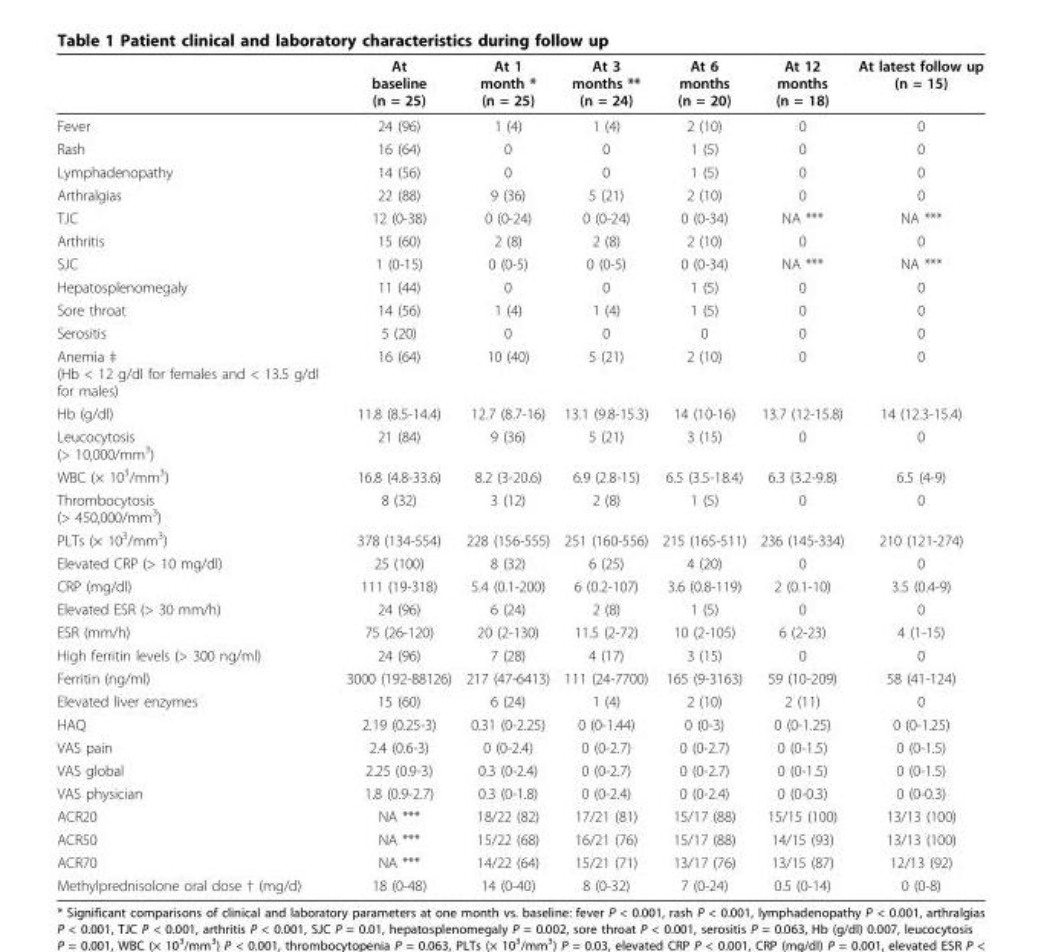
<table><thead><tr><td></td><td>At baseline (n = 25)</td><td>At 1 month * (n = 25)</td><td>At 3 months ** (n = 24)</td><td>At 6 months (n = 20)</td><td>At 12 months (n = 18)</td><td>At latest follow up (n = 15)</td></tr></thead><tbody><tr><td>Fever</td><td>24 (96)</td><td>1 (4)</td><td>1 (4)</td><td>2 (10)</td><td>0</td><td>0</td></tr><tr><td>Rash</td><td>16 (64)</td><td>0</td><td>0</td><td>1 (5)</td><td>0</td><td>0</td></tr><tr><td>Lymphadenopathy</td><td>14 (56)</td><td>0</td><td>0</td><td>1 (5)</td><td>0</td><td>0</td></tr><tr><td>Arthralgias</td><td>22 (88)</td><td>9 (36)</td><td>5 (21)</td><td>2 (10)</td><td>0</td><td>0</td></tr><tr><td>TJC</td><td>12 (0-38)</td><td>0 (0-24)</td><td>0 (0-24)</td><td>0 (0-34)</td><td>NA ***</td><td>NA ***</td></tr><tr><td>Arthritis</td><td>15 (60)</td><td>2 (8)</td><td>2 (8)</td><td>2 (10)</td><td>0</td><td>0</td></tr><tr><td>SJC</td><td>1 (0-15)</td><td>0 (0-5)</td><td>0 (0-5)</td><td>0 (0-34)</td><td>NA ***</td><td>NA ***</td></tr><tr><td>Hepatosplenomegaly</td><td>11 (44)</td><td>0</td><td>0</td><td>1 (5)</td><td>0</td><td>0</td></tr><tr><td>Sore throat</td><td>14 (56)</td><td>1 (4)</td><td>1 (4)</td><td>1 (5)</td><td>0</td><td>0</td></tr><tr><td>Serositis</td><td>5 (20)</td><td>0</td><td>0</td><td>0</td><td>0</td><td>0</td></tr><tr><td>Anemia ‡ (Hb &lt; 12 g/dl for females and &lt; 13.5 g/dl for males)</td><td>16 (64)</td><td>10 (40)</td><td>5 (21)</td><td>2 (10)</td><td>0</td><td>0</td></tr><tr><td>Hb (g/dl)</td><td>11.8 (8.5-14.4)</td><td>12.7 (8.7-16)</td><td>13.1 (9.8-15.3)</td><td>14 (10-16)</td><td>13.7 (12-15.8)</td><td>14 (12.3-15.4)</td></tr><tr><td>Leucocytosis (&gt; 10,000/mm<sup>3</sup>)</td><td>21 (84)</td><td>9 (36)</td><td>5 (21)</td><td>3 (15)</td><td>0</td><td>0</td></tr><tr><td>WBC (× 10<sup>3</sup>/mm<sup>3</sup>)</td><td>16.8 (4.8-33.6)</td><td>8.2 (3-20.6)</td><td>6.9 (2.8-15)</td><td>6.5 (3.5-18.4)</td><td>6.3 (3.2-9.8)</td><td>6.5 (4-9)</td></tr><tr><td>Thrombocytosis (&gt; 450,000/mm<sup>3</sup>)</td><td>8 (32)</td><td>3 (12)</td><td>2 (8)</td><td>1 (5)</td><td>0</td><td>0</td></tr><tr><td>PLTs (× 10<sup>3</sup>/mm<sup>3</sup>)</td><td>378 (134-554)</td><td>228 (156-555)</td><td>251 (160-556)</td><td>215 (165-511)</td><td>236 (145-334)</td><td>210 (121-274)</td></tr><tr><td>Elevated CRP (&gt; 10 mg/dl)</td><td>25 (100)</td><td>8 (32)</td><td>6 (25)</td><td>4 (20)</td><td>0</td><td>0</td></tr><tr><td>CRP (mg/dl)</td><td>111 (19-318)</td><td>5.4 (0.1-200)</td><td>6 (0.2-107)</td><td>3.6 (0.8-119)</td><td>2 (0.1-10)</td><td>3.5 (0.4-9)</td></tr><tr><td>Elevated ESR (&gt; 30 mm/h)</td><td>24 (96)</td><td>6 (24)</td><td>2 (8)</td><td>1 (5)</td><td>0</td><td>0</td></tr><tr><td>ESR (mm/h)</td><td>75 (26-120)</td><td>20 (2-130)</td><td>11.5 (2-72)</td><td>10 (2-105)</td><td>6 (2-23)</td><td>4 (1-15)</td></tr><tr><td>High ferritin levels (&gt; 300 ng/ml)</td><td>24 (96)</td><td>7 (28)</td><td>4 (17)</td><td>3 (15)</td><td>0</td><td>0</td></tr><tr><td>Ferritin (ng/ml)</td><td>3000 (192-88126)</td><td>217 (47-6413)</td><td>111 (24-7700)</td><td>165 (9-3163)</td><td>59 (10-209)</td><td>58 (41-124)</td></tr><tr><td>Elevated liver enzymes</td><td>15 (60)</td><td>6 (24)</td><td>1 (4)</td><td>2 (10)</td><td>2 (11)</td><td>0</td></tr><tr><td>HAQ</td><td>2.19 (0.25-3)</td><td>0.31 (0-2.25)</td><td>0 (0-1.44)</td><td>0 (0-3)</td><td>0 (0-1.25)</td><td>0 (0-1.25)</td></tr><tr><td>VAS pain</td><td>2.4 (0.6-3)</td><td>0 (0-2.4)</td><td>0 (0-2.7)</td><td>0 (0-2.7)</td><td>0 (0-1.5)</td><td>0 (0-1.5)</td></tr><tr><td>VAS global</td><td>2.25 (0.9-3)</td><td>0.3 (0-2.4)</td><td>0 (0-2.7)</td><td>0 (0-2.7)</td><td>0 (0-1.5)</td><td>0 (0-1.5)</td></tr><tr><td>VAS physician</td><td>1.8 (0.9-2.7)</td><td>0.3 (0-1.8)</td><td>0 (0-2.4)</td><td>0 (0-2.4)</td><td>0 (0-0.3)</td><td>0 (0-0.3)</td></tr><tr><td>ACR20</td><td>NA ***</td><td>18/22 (82)</td><td>17/21 (81)</td><td>15/17 (88)</td><td>15/15 (100)</td><td>13/13 (100)</td></tr><tr><td>ACR50</td><td>NA ***</td><td>15/22 (68)</td><td>16/21 (76)</td><td>15/17 (88)</td><td>14/15 (93)</td><td>13/13 (100)</td></tr><tr><td>ACR70</td><td>NA ***</td><td>14/22 (64)</td><td>15/21 (71)</td><td>13/17 (76)</td><td>13/15 (87)</td><td>12/13 (92)</td></tr><tr><td>Methylprednisolone oral dose † (mg/d)</td><td>18 (0-48)</td><td>14 (0-40)</td><td>8 (0-32)</td><td>7 (0-24)</td><td>0.5 (0-14)</td><td>0 (0-8)</td></tr></tbody></table>